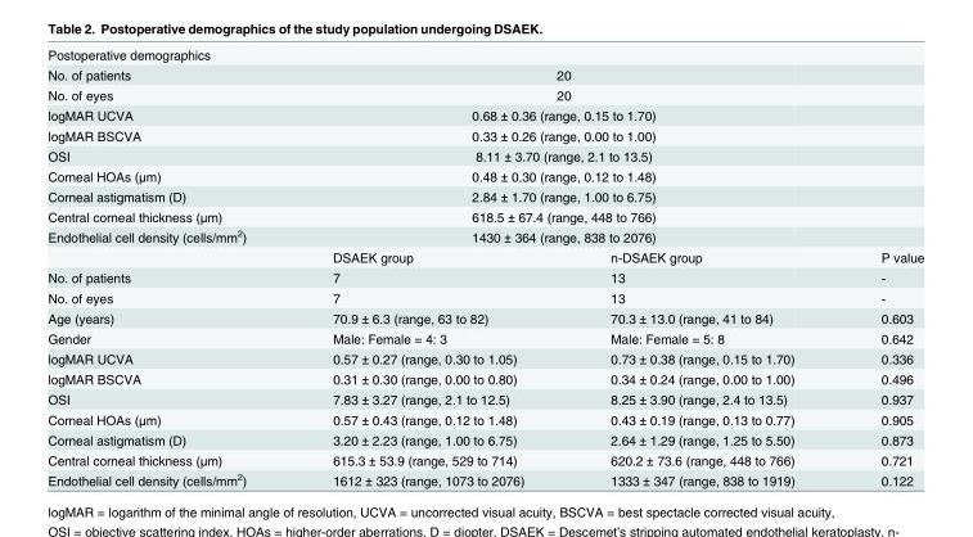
<table><tbody><tr><td colspan="4">Postoperative demographics</td></tr><tr><td>No. of patients</td><td colspan="2">20</td><td></td></tr><tr><td>No. of eyes</td><td colspan="2">20</td><td></td></tr><tr><td>logMAR UCVA</td><td colspan="2">0.68 ± 0.36 (range, 0.15 to 1.70)</td><td></td></tr><tr><td>logMAR BSCVA</td><td colspan="2">0.33 ± 0.26 (range, 0.00 to 1.00)</td><td></td></tr><tr><td>OSI</td><td colspan="2">8.11 ± 3.70 (range, 2.1 to 13.5)</td><td></td></tr><tr><td>Corneal HOAs (μm)</td><td colspan="2">0.48 ± 0.30 (range, 0.12 to 1.48)</td><td></td></tr><tr><td>Corneal astigmatism (D)</td><td colspan="2">2.84 ± 1.70 (range, 1.00 to 6.75)</td><td></td></tr><tr><td>Central corneal thickness (μm)</td><td colspan="2">618.5 ± 67.4 (range, 448 to 766)</td><td></td></tr><tr><td rowspan="2">Endothelial cell density (cells/mm<sup>2</sup>)</td><td colspan="2">1430 ± 364 (range, 838 to 2076)</td><td></td></tr><tr><td>DSAEK group</td><td>n-DSAEK group</td><td>P value</td></tr><tr><td>No. of patients</td><td>7</td><td>13</td><td>-</td></tr><tr><td>No. of eyes</td><td>7</td><td>13</td><td>-</td></tr><tr><td>Age (years)</td><td>70.9 ± 6.3 (range, 63 to 82)</td><td>70.3 ± 13.0 (range, 41 to 84)</td><td>0.603</td></tr><tr><td>Gender</td><td>Male: Female = 4: 3</td><td>Male: Female = 5: 8</td><td>0.642</td></tr><tr><td>logMAR UCVA</td><td>0.57 ± 0.27 (range, 0.30 to 1.05)</td><td>0.73 ± 0.38 (range, 0.15 to 1.70)</td><td>0.336</td></tr><tr><td>logMAR BSCVA</td><td>0.31 ± 0.30 (range, 0.00 to 0.80)</td><td>0.34 ± 0.24 (range, 0.00 to 1.00)</td><td>0.496</td></tr><tr><td>OSI</td><td>7.83 ± 3.27 (range, 2.1 to 12.5)</td><td>8.25 ± 3.90 (range, 2.4 to 13.5)</td><td>0.937</td></tr><tr><td>Corneal HOAs (μm)</td><td>0.57 ± 0.43 (range, 0.12 to 1.48)</td><td>0.43 ± 0.19 (range, 0.13 to 0.77)</td><td>0.905</td></tr><tr><td>Corneal astigmatism (D)</td><td>3.20 ± 2.23 (range, 1.00 to 6.75)</td><td>2.64 ± 1.29 (range, 1.25 to 5.50)</td><td>0.873</td></tr><tr><td>Central corneal thickness (μm)</td><td>615.3 ± 53.9 (range, 529 to 714)</td><td>620.2 ± 73.6 (range, 448 to 766)</td><td>0.721</td></tr><tr><td>Endothelial cell density (cells/mm<sup>2</sup>)</td><td>1612 ± 323 (range, 1073 to 2076)</td><td>1333 ± 347 (range, 838 to 1919)</td><td>0.122</td></tr></tbody></table>